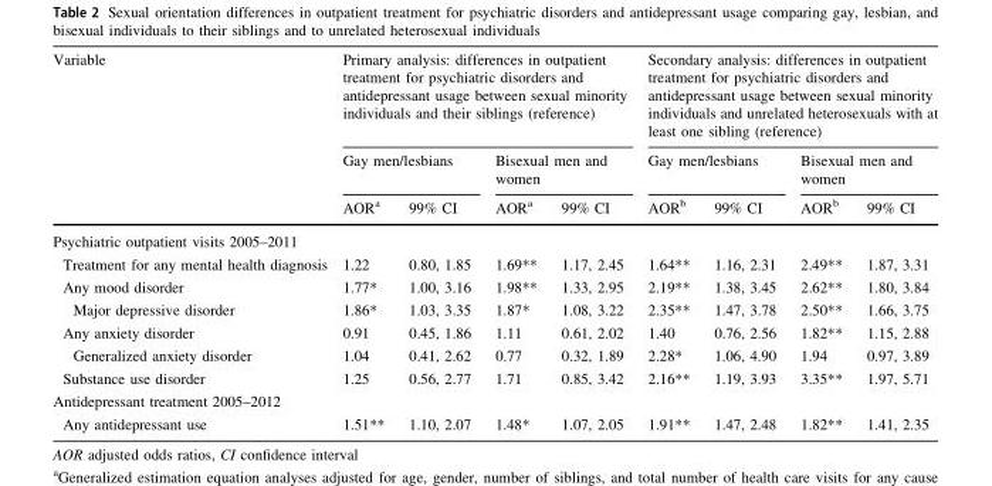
<table><thead><tr><td rowspan="3">Variable</td><td colspan="4">Primary analysis: differences in outpatient treatment for psychiatric disorders and antidepressant usage between sexual minority individuals and their siblings (reference)</td><td colspan="4">Secondary analysis: differences in outpatient treatment for psychiatric disorders and antidepressant usage between sexual minority individuals and unrelated heterosexuals with at least one sibling (reference)</td></tr><tr><td colspan="2">Gay men/lesbians</td><td colspan="2">Bisexual men and women</td><td colspan="2">Gay men/lesbians</td><td colspan="2">Bisexual men and women</td></tr><tr><td>AOR<sup>a</sup></td><td>99% CI</td><td>AOR<sup>a</sup></td><td>99% CI</td><td>AOR<sup>b</sup></td><td>99% CI</td><td>AOR<sup>b</sup></td><td>99% CI</td></tr></thead><tbody><tr><td colspan="9">Psychiatric outpatient visits 2005–2011</td></tr><tr><td>Treatment for any mental health diagnosis</td><td>1.22</td><td>0.80, 1.85</td><td>1.69**</td><td>1.17, 2.45</td><td>1.64**</td><td>1.16, 2.31</td><td>2.49**</td><td>1.87, 3.31</td></tr><tr><td>Any mood disorder</td><td>1.77*</td><td>1.00, 3.16</td><td>1.98**</td><td>1.33, 2.95</td><td>2.19**</td><td>1.38, 3.45</td><td>2.62**</td><td>1.80, 3.84</td></tr><tr><td>Major depressive disorder</td><td>1.86*</td><td>1.03, 3.35</td><td>1.87*</td><td>1.08, 3.22</td><td>2.35**</td><td>1.47, 3.78</td><td>2.50**</td><td>1.66, 3.75</td></tr><tr><td>Any anxiety disorder</td><td>0.91</td><td>0.45, 1.86</td><td>1.11</td><td>0.61, 2.02</td><td>1.40</td><td>0.76, 2.56</td><td>1.82**</td><td>1.15, 2.88</td></tr><tr><td>Generalized anxiety disorder</td><td>1.04</td><td>0.41, 2.62</td><td>0.77</td><td>0.32, 1.89</td><td>2.28*</td><td>1.06, 4.90</td><td>1.94</td><td>0.97, 3.89</td></tr><tr><td>Substance use disorder</td><td>1.25</td><td>0.56, 2.77</td><td>1.71</td><td>0.85, 3.42</td><td>2.16**</td><td>1.19, 3.93</td><td>3.35**</td><td>1.97, 5.71</td></tr><tr><td colspan="9">Antidepressant treatment 2005–2012</td></tr><tr><td>Any antidepressant use</td><td>1.51**</td><td>1.10, 2.07</td><td>1.48*</td><td>1.07, 2.05</td><td>1.91**</td><td>1.47, 2.48</td><td>1.82**</td><td>1.41, 2.35</td></tr></tbody></table>